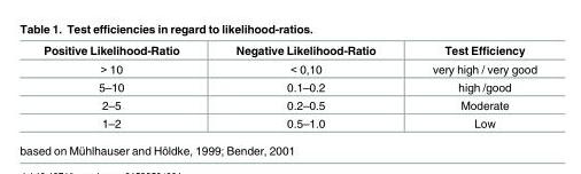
<table><thead><tr><td>Positive Likelihood-Ratio</td><td>Negative Likelihood-Ratio</td><td>Test Efficiency</td></tr></thead><tbody><tr><td>&gt; 10</td><td>&lt; 0,10</td><td>very high / very good</td></tr><tr><td>5–10</td><td>0.1–0.2</td><td>high /good</td></tr><tr><td>2–5</td><td>0.2–0.5</td><td>Moderate</td></tr><tr><td>1–2</td><td>0.5–1.0</td><td>Low</td></tr></tbody></table>